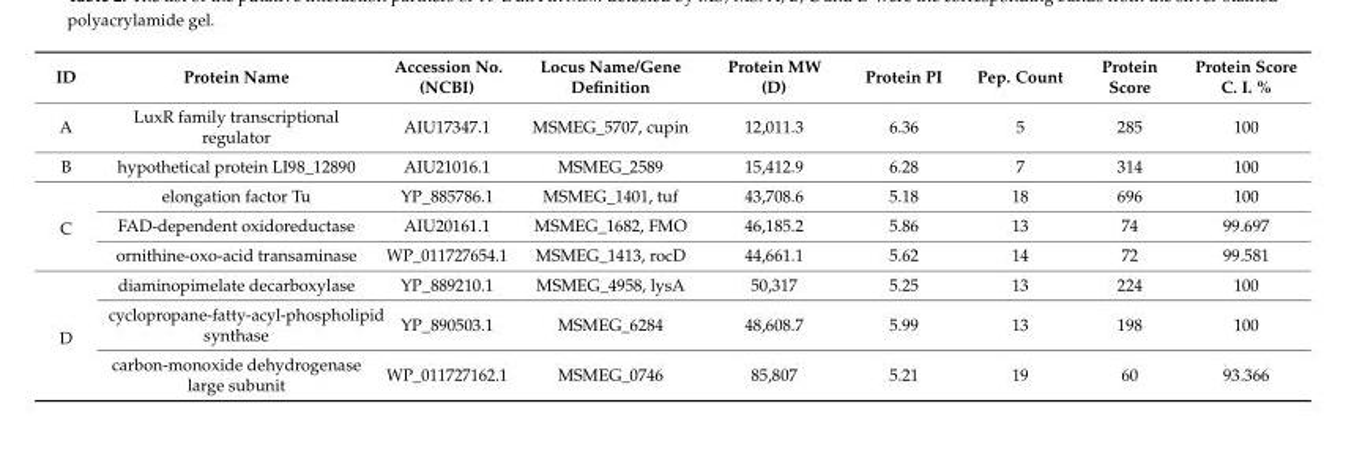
<table><thead><tr><td>ID</td><td>Protein Name</td><td>Accession No. (NCBI)</td><td>Locus Name/Gene Definition</td><td>Protein MW (D)</td><td>Protein PI</td><td>Pep. Count</td><td>Protein Score</td><td>Protein Score C. I. %</td></tr></thead><tbody><tr><td>A</td><td>LuxR family transcriptional regulator</td><td>AIU17347.1</td><td>MSMEG_5707, cupin</td><td>12,011.3</td><td>6.36</td><td>5</td><td>285</td><td>100</td></tr><tr><td>B</td><td>hypothetical protein LI98_12890</td><td>AIU21016.1</td><td>MSMEG_2589</td><td>15,412.9</td><td>6.28</td><td>7</td><td>314</td><td>100</td></tr><tr><td rowspan="3">C</td><td>elongation factor Tu</td><td>YP_885786.1</td><td>MSMEG_1401, tuf</td><td>43,708.6</td><td>5.18</td><td>18</td><td>696</td><td>100</td></tr><tr><td>FAD-dependent oxidoreductase</td><td>AIU20161.1</td><td>MSMEG_1682, FMO</td><td>46,185.2</td><td>5.86</td><td>13</td><td>74</td><td>99.697</td></tr><tr><td>ornithine-oxo-acid transaminase</td><td>WP_011727654.1</td><td>MSMEG_1413, rocD</td><td>44,661.1</td><td>5.62</td><td>14</td><td>72</td><td>99.581</td></tr><tr><td rowspan="3">D</td><td>diaminopimelate decarboxylase</td><td>YP_889210.1</td><td>MSMEG_4958, lysA</td><td>50,317</td><td>5.25</td><td>13</td><td>224</td><td>100</td></tr><tr><td>cyclopropane-fatty-acyl-phospholipid synthase</td><td>YP_890503.1</td><td>MSMEG_6284</td><td>48,608.7</td><td>5.99</td><td>13</td><td>198</td><td>100</td></tr><tr><td>carbon-monoxide dehydrogenase large subunit</td><td>WP_011727162.1</td><td>MSMEG_0746</td><td>85,807</td><td>5.21</td><td>19</td><td>60</td><td>93.366</td></tr></tbody></table>